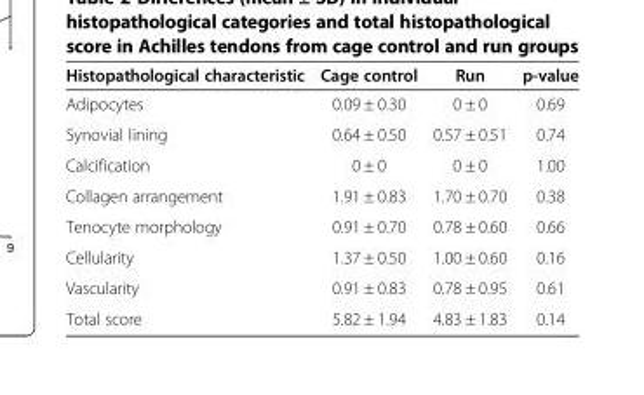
<table><thead><tr><td>Histopathological characteristic</td><td>Cage control</td><td>Run</td><td>p-value</td></tr></thead><tbody><tr><td>Adipocytes</td><td>0.09 ± 0.30</td><td>0 ± 0</td><td>0.69</td></tr><tr><td>Synovial lining</td><td>0.64 ± 0.50</td><td>0.57 ± 0.51</td><td>0.74</td></tr><tr><td>Calcification</td><td>0 ± 0</td><td>0 ± 0</td><td>1.00</td></tr><tr><td>Collagen arrangement</td><td>1.91 ± 0.83</td><td>1.70 ± 0.70</td><td>0.38</td></tr><tr><td>Tenocyte morphology</td><td>0.91 ± 0.70</td><td>0.78 ± 0.60</td><td>0.66</td></tr><tr><td>Cellularity</td><td>1.37 ± 0.50</td><td>1.00 ± 0.60</td><td>0.16</td></tr><tr><td>Vascularity</td><td>0.91 ± 0.83</td><td>0.78 ± 0.95</td><td>0.61</td></tr><tr><td>Total score</td><td>5.82 ± 1.94</td><td>4.83 ± 1.83</td><td>0.14</td></tr></tbody></table>